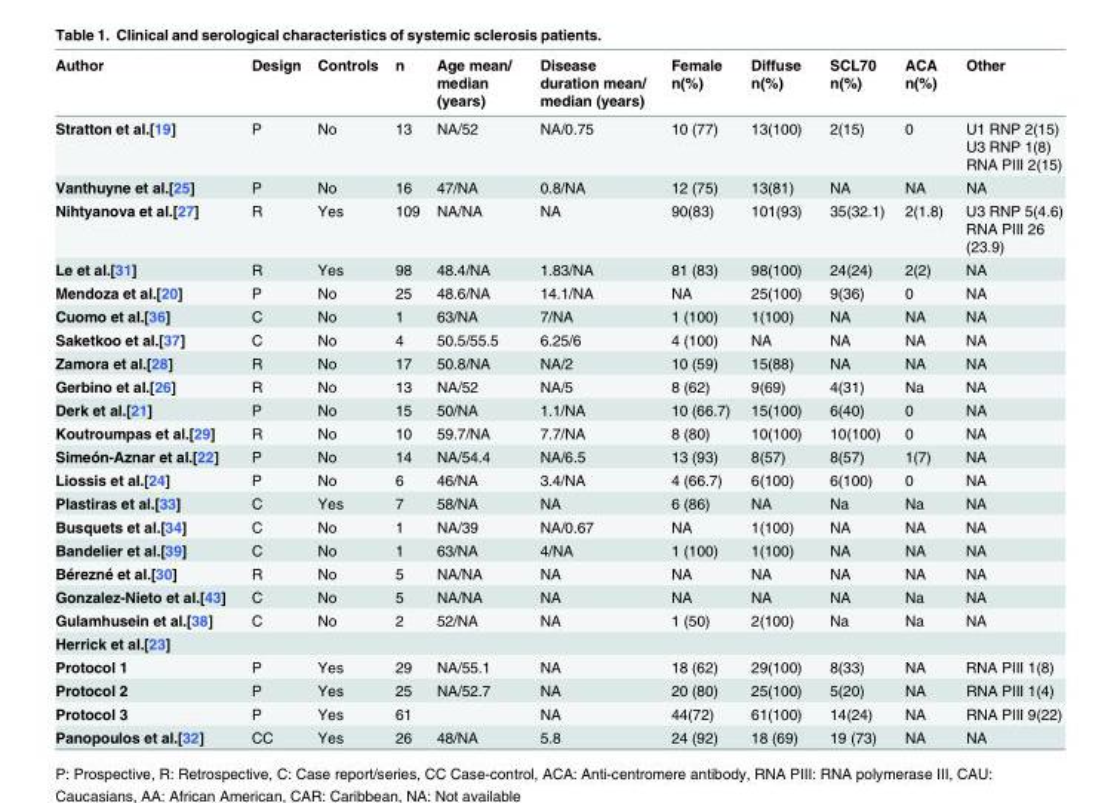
<table><thead><tr><td>Author</td><td>Design</td><td>Controls</td><td>n</td><td>Age mean/ median (years)</td><td>Disease duration mean/ median (years)</td><td>Female n(%)</td><td>Diffuse n(%)</td><td>SCL70 n(%)</td><td>ACA n(%)</td><td>Other</td></tr></thead><tbody><tr><td>Stratton et al.[19]</td><td>P</td><td>No</td><td>13</td><td>NA/52</td><td>NA/0.75</td><td>10 (77)</td><td>13(100)</td><td>2(15)</td><td>0</td><td>U1 RNP 2(15) U3 RNP 1(8) RNA PIII 2(15)</td></tr><tr><td>Vanthuyne et al.[25]</td><td>P</td><td>No</td><td>16</td><td>47/NA</td><td>0.8/NA</td><td>12 (75)</td><td>13(81)</td><td>NA</td><td>NA</td><td>NA</td></tr><tr><td>Nihtyanova et al.[27]</td><td>R</td><td>Yes</td><td>109</td><td>NA/NA</td><td>NA</td><td>90(83)</td><td>101(93)</td><td>35(32.1)</td><td>2(1.8)</td><td>U3 RNP 5(4.6) RNA PIII 26 (23.9)</td></tr><tr><td>Le et al.[31]</td><td>R</td><td>Yes</td><td>98</td><td>48.4/NA</td><td>1.83/NA</td><td>81 (83)</td><td>98(100)</td><td>24(24)</td><td>2(2)</td><td>NA</td></tr><tr><td>Mendoza et al.[20]</td><td>P</td><td>No</td><td>25</td><td>48.6/NA</td><td>14.1/NA</td><td>NA</td><td>25(100)</td><td>9(36)</td><td>0</td><td>NA</td></tr><tr><td>Cuomo et al.[36]</td><td>C</td><td>No</td><td>1</td><td>63/NA</td><td>7/NA</td><td>1 (100)</td><td>1(100)</td><td>NA</td><td>NA</td><td>NA</td></tr><tr><td>Saketkoo et al.[37]</td><td>C</td><td>No</td><td>4</td><td>50.5/55.5</td><td>6.25/6</td><td>4 (100)</td><td>NA</td><td>NA</td><td>NA</td><td>NA</td></tr><tr><td>Zamora et al.[28]</td><td>R</td><td>No</td><td>17</td><td>50.8/NA</td><td>NA/2</td><td>10 (59)</td><td>15(88)</td><td>NA</td><td>NA</td><td>NA</td></tr><tr><td>Gerbino et al.[26]</td><td>R</td><td>No</td><td>13</td><td>NA/52</td><td>NA/5</td><td>8 (62)</td><td>9(69)</td><td>4(31)</td><td>Na</td><td>NA</td></tr><tr><td>Derk et al.[21]</td><td>P</td><td>No</td><td>15</td><td>50/NA</td><td>1.1/NA</td><td>10 (66.7)</td><td>15(100)</td><td>6(40)</td><td>0</td><td>NA</td></tr><tr><td>Koutroumpas et al.[29]</td><td>R</td><td>No</td><td>10</td><td>59.7/NA</td><td>7.7/NA</td><td>8 (80)</td><td>10(100)</td><td>10(100)</td><td>0</td><td>NA</td></tr><tr><td>Simeón-Aznar et al.[22]</td><td>P</td><td>No</td><td>14</td><td>NA/54.4</td><td>NA/6.5</td><td>13 (93)</td><td>8(57)</td><td>8(57)</td><td>1(7)</td><td>NA</td></tr><tr><td>Liossis et al.[24]</td><td>P</td><td>No</td><td>6</td><td>46/NA</td><td>3.4/NA</td><td>4 (66.7)</td><td>6(100)</td><td>6(100)</td><td>0</td><td>NA</td></tr><tr><td>Plastiras et al.[33]</td><td>C</td><td>Yes</td><td>7</td><td>58/NA</td><td>NA</td><td>6 (86)</td><td>NA</td><td>Na</td><td>Na</td><td>NA</td></tr><tr><td>Busquets et al.[34]</td><td>C</td><td>No</td><td>1</td><td>NA/39</td><td>NA/0.67</td><td>NA</td><td>1(100)</td><td>NA</td><td>NA</td><td>NA</td></tr><tr><td>Bandelier et al.[39]</td><td>C</td><td>No</td><td>1</td><td>63/NA</td><td>4/NA</td><td>1 (100)</td><td>1(100)</td><td>NA</td><td>NA</td><td>NA</td></tr><tr><td>Bérezné et al.[30]</td><td>R</td><td>No</td><td>5</td><td>NA/NA</td><td>NA</td><td>NA</td><td>NA</td><td>NA</td><td>NA</td><td>NA</td></tr><tr><td>Gonzalez-Nieto et al.[43]</td><td>C</td><td>No</td><td>5</td><td>NA/NA</td><td>NA</td><td>NA</td><td>NA</td><td>NA</td><td>Na</td><td>NA</td></tr><tr><td>Gulamhusein et al.[38]</td><td>C</td><td>No</td><td>2</td><td>52/NA</td><td>NA</td><td>1 (50)</td><td>2(100)</td><td>Na</td><td>Na</td><td>NA</td></tr><tr><td colspan="11">Herrick et al.[23]</td></tr><tr><td>Protocol 1</td><td>P</td><td>Yes</td><td>29</td><td>NA/55.1</td><td>NA</td><td>18 (62)</td><td>29(100)</td><td>8(33)</td><td>NA</td><td>RNA PIII 1(8)</td></tr><tr><td>Protocol 2</td><td>P</td><td>Yes</td><td>25</td><td>NA/52.7</td><td>NA</td><td>20 (80)</td><td>25(100)</td><td>5(20)</td><td>NA</td><td>RNA PIII 1(4)</td></tr><tr><td>Protocol 3</td><td>P</td><td>Yes</td><td>61</td><td></td><td>NA</td><td>44(72)</td><td>61(100)</td><td>14(24)</td><td>NA</td><td>RNA PIII 9(22)</td></tr><tr><td>Panopoulos et al.[32]</td><td>CC</td><td>Yes</td><td>26</td><td>48/NA</td><td>5.8</td><td>24 (92)</td><td>18 (69)</td><td>19 (73)</td><td>NA</td><td>NA</td></tr></tbody></table>